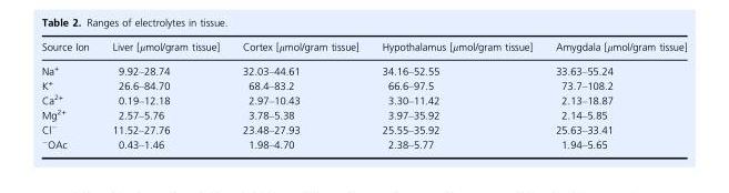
<table><thead><tr><td>Source Ion</td><td>Liver [μmol/gram tissue]</td><td>Cortex [μmol/gram tissue]</td><td>Hypothalamus [μmol/gram tissue]</td><td>Amygdala [μmol/gram tissue]</td></tr></thead><tbody><tr><td>Na<sup>+</sup></td><td>9.92–28.74</td><td>32.03–44.61</td><td>34.16–52.55</td><td>33.63–55.24</td></tr><tr><td>K<sup>+</sup></td><td>26.6–84.70</td><td>68.4–83.2</td><td>66.6–97.5</td><td>73.7–108.2</td></tr><tr><td>Ca<sup>2+</sup></td><td>0.19–12.18</td><td>2.97–10.43</td><td>3.30–11.42</td><td>2.13–18.87</td></tr><tr><td>Mg<sup>2+</sup></td><td>2.57–5.76</td><td>3.78–5.38</td><td>3.97–35.92</td><td>2.14–5.85</td></tr><tr><td>Cl<sup>−</sup></td><td>11.52–27.76</td><td>23.48–27.93</td><td>25.55–35.92</td><td>25.63–33.41</td></tr><tr><td><sup>−</sup>OAc</td><td>0.43–1.46</td><td>1.98–4.70</td><td>2.38–5.77</td><td>1.94–5.65</td></tr></tbody></table>